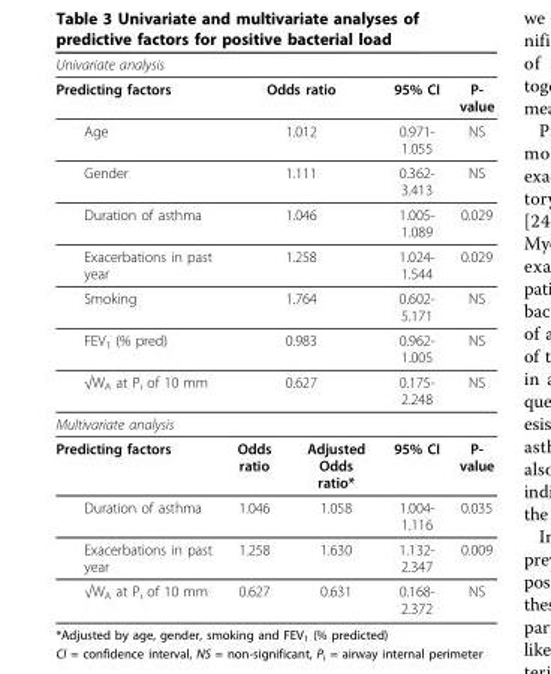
<table><thead><tr><td colspan="5">Univariate analysis</td></tr></thead><tbody><tr><td>Predicting factors</td><td colspan="2">Odds ratio</td><td>95% CI</td><td>P- value</td></tr><tr><td>Age</td><td colspan="2">1.012</td><td>0.971- 1.055</td><td>NS</td></tr><tr><td>Gender</td><td colspan="2">1.111</td><td>0.362- 3.413</td><td>NS</td></tr><tr><td>Duration of asthma</td><td colspan="2">1.046</td><td>1.005- 1.089</td><td>0.029</td></tr><tr><td>Exacerbations in past year</td><td colspan="2">1.258</td><td>1.024- 1.544</td><td>0.029</td></tr><tr><td>Smoking</td><td colspan="2">1.764</td><td>0.602- 5.171</td><td>NS</td></tr><tr><td>FEV<sub>1</sub> (% pred)</td><td colspan="2">0.983</td><td>0.962- 1.005</td><td>NS</td></tr><tr><td>√W<sub>A</sub> at P<sub>i</sub> of 10 mm</td><td colspan="2">0.627</td><td>0.175- 2.248</td><td>NS</td></tr><tr><td colspan="5">Multivariate analysis</td></tr><tr><td>Predicting factors</td><td>Odds ratio</td><td>Adjusted Odds ratio*</td><td>95% CI</td><td>P- value</td></tr><tr><td>Duration of asthma</td><td>1.046</td><td>1.058</td><td>1.004- 1.116</td><td>0.035</td></tr><tr><td>Exacerbations in past year</td><td>1.258</td><td>1.630</td><td>1.132- 2.347</td><td>0.009</td></tr><tr><td>√W<sub>A</sub> at P<sub>i</sub> of 10 mm</td><td>0.627</td><td>0.631</td><td>0.168- 2.372</td><td>NS</td></tr></tbody></table>